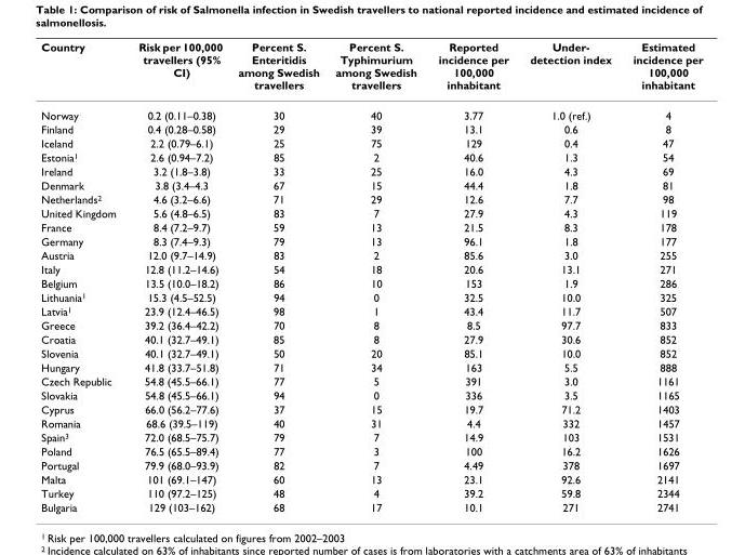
<table><thead><tr><td>Country</td><td>Risk per 100,000 travellers (95% CI)</td><td>Percent S. Enteritidis among Swedish travellers</td><td>Percent S. Typhimurium among Swedish travellers</td><td>Reported incidence per 100,000 inhabitant</td><td>Under- detection index</td><td>Estimated incidence per 100,000 inhabitant</td></tr></thead><tbody><tr><td>Norway</td><td>0.2 (0.11–0.38)</td><td>30</td><td>40</td><td>3.77</td><td>1.0 (ref.)</td><td>4</td></tr><tr><td>Finland</td><td>0.4 (0.28–0.58)</td><td>29</td><td>39</td><td>13.1</td><td>0.6</td><td>8</td></tr><tr><td>Iceland</td><td>2.2 (0.79–6.1)</td><td>25</td><td>75</td><td>129</td><td>0.4</td><td>47</td></tr><tr><td>Estonia1</td><td>2.6 (0.94–7.2)</td><td>85</td><td>2</td><td>40.6</td><td>1.3</td><td>54</td></tr><tr><td>Ireland</td><td>3.2 (1.8–3.8)</td><td>33</td><td>25</td><td>16.0</td><td>4.3</td><td>69</td></tr><tr><td>Denmark</td><td>3.8 (3.4–4.3</td><td>67</td><td>15</td><td>44.4</td><td>1.8</td><td>81</td></tr><tr><td>Netherlands2</td><td>4.6 (3.2–6.6)</td><td>71</td><td>29</td><td>12.6</td><td>7.7</td><td>98</td></tr><tr><td>United Kingdom</td><td>5.6 (4.8–6.5)</td><td>83</td><td>7</td><td>27.9</td><td>4.3</td><td>119</td></tr><tr><td>France</td><td>8.4 (7.2–9.7)</td><td>59</td><td>13</td><td>21.5</td><td>8.3</td><td>178</td></tr><tr><td>Germany</td><td>8.3 (7.4–9.3)</td><td>79</td><td>13</td><td>96.1</td><td>1.8</td><td>177</td></tr><tr><td>Austria</td><td>12.0 (9.7–14.9)</td><td>83</td><td>2</td><td>85.6</td><td>3.0</td><td>255</td></tr><tr><td>Italy</td><td>12.8 (11.2–14.6)</td><td>54</td><td>18</td><td>20.6</td><td>13.1</td><td>271</td></tr><tr><td>Belgium</td><td>13.5 (10.0–18.2)</td><td>86</td><td>10</td><td>153</td><td>1.9</td><td>286</td></tr><tr><td>Lithuania1</td><td>15.3 (4.5–52.5)</td><td>94</td><td>0</td><td>32.5</td><td>10.0</td><td>325</td></tr><tr><td>Latvia1</td><td>23.9 (12.4–46.5)</td><td>98</td><td>1</td><td>43.4</td><td>11.7</td><td>507</td></tr><tr><td>Greece</td><td>39.2 (36.4–42.2)</td><td>70</td><td>8</td><td>8.5</td><td>97.7</td><td>833</td></tr><tr><td>Croatia</td><td>40.1 (32.7–49.1)</td><td>85</td><td>8</td><td>27.9</td><td>30.6</td><td>852</td></tr><tr><td>Slovenia</td><td>40.1 (32.7–49.1)</td><td>50</td><td>20</td><td>85.1</td><td>10.0</td><td>852</td></tr><tr><td>Hungary</td><td>41.8 (33.7–51.8)</td><td>71</td><td>34</td><td>163</td><td>5.5</td><td>888</td></tr><tr><td>Czech Republic</td><td>54.8 (45.5–66.1)</td><td>77</td><td>5</td><td>391</td><td>3.0</td><td>1161</td></tr><tr><td>Slovakia</td><td>54.8 (45.5–66.1)</td><td>94</td><td>0</td><td>336</td><td>3.5</td><td>1165</td></tr><tr><td>Cyprus</td><td>66.0 (56.2–77.6)</td><td>37</td><td>15</td><td>19.7</td><td>71.2</td><td>1403</td></tr><tr><td>Romania</td><td>68.6 (39.5–119)</td><td>40</td><td>31</td><td>4.4</td><td>332</td><td>1457</td></tr><tr><td>Spain3</td><td>72.0 (68.5–75.7)</td><td>79</td><td>7</td><td>14.9</td><td>103</td><td>1531</td></tr><tr><td>Poland</td><td>76.5 (65.5–89.4)</td><td>77</td><td>3</td><td>100</td><td>16.2</td><td>1626</td></tr><tr><td>Portugal</td><td>79.9 (68.0–93.9)</td><td>82</td><td>7</td><td>4.49</td><td>378</td><td>1697</td></tr><tr><td>Malta</td><td>101 (69.1–147)</td><td>60</td><td>13</td><td>23.1</td><td>92.6</td><td>2141</td></tr><tr><td>Turkey</td><td>110 (97.2–125)</td><td>48</td><td>4</td><td>39.2</td><td>59.8</td><td>2344</td></tr><tr><td>Bulgaria</td><td>129 (103–162)</td><td>68</td><td>17</td><td>10.1</td><td>271</td><td>2741</td></tr></tbody></table>